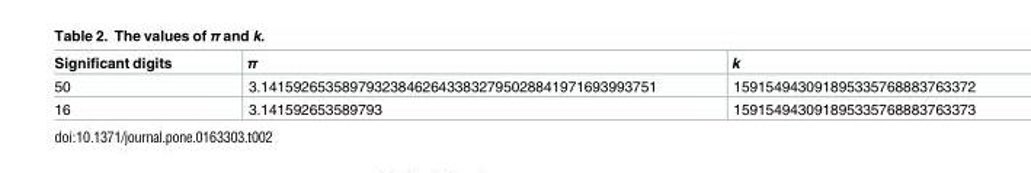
<table><thead><tr><td>Significant digits</td><td>π</td><td>k</td></tr></thead><tbody><tr><td>50</td><td>3.1415926535897932384626433832795028841971693993751</td><td>159154943091895335768883763372</td></tr><tr><td>16</td><td>3.141592653589793</td><td>159154943091895335768883763373</td></tr></tbody></table>